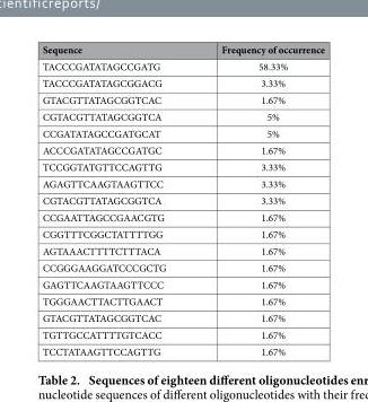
<table><thead><tr><td>Sequence</td><td>Frequency of occurrence</td></tr></thead><tbody><tr><td>TACCCGATATAGCCGATG</td><td>58.33%</td></tr><tr><td>TACCCGATATAGCGGACG</td><td>3.33%</td></tr><tr><td>GTACGTTATAGCGGTCAC</td><td>1.67%</td></tr><tr><td>CGTACGTTATAGCGGTCA</td><td>5%</td></tr><tr><td>CCGATATAGCCGATGCAT</td><td>5%</td></tr><tr><td>ACCCGATATAGCCGATGC</td><td>1.67%</td></tr><tr><td>TCCGGTATGTTCCAGTTG</td><td>3.33%</td></tr><tr><td>AGAGTTCAAGTAAGTTCC</td><td>3.33%</td></tr><tr><td>CGTACGTTATAGCGGTCA</td><td>3.33%</td></tr><tr><td>CCGAATTAGCCGAACGTG</td><td>1.67%</td></tr><tr><td>CGGTTTCGGCTATTTTGG</td><td>1.67%</td></tr><tr><td>AGTAAACTTTTCTTTACA</td><td>1.67%</td></tr><tr><td>CCGGGAAGGATCCCGCTG</td><td>1.67%</td></tr><tr><td>GAGTTCAAGTAAGTTCCC</td><td>1.67%</td></tr><tr><td>TGGGAACTTACTTGAACT</td><td>1.67%</td></tr><tr><td>GTACGTTATAGCGGTCAC</td><td>1.67%</td></tr><tr><td>TGTTGCCATTTTGTCACC</td><td>1.67%</td></tr><tr><td>TCCTATAAGTTCCAGTTG</td><td>1.67%</td></tr></tbody></table>